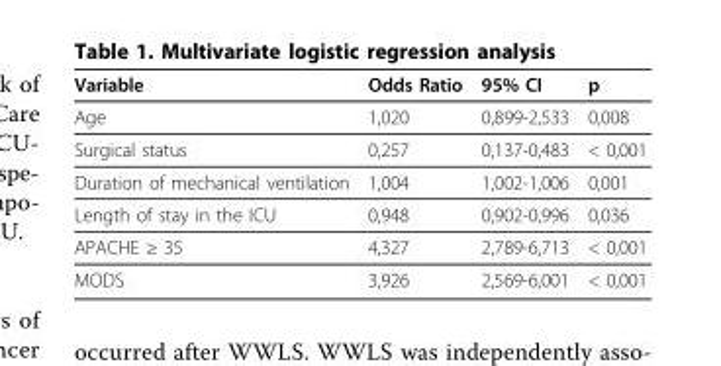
<table><thead><tr><td>Variable</td><td>Odds Ratio</td><td>95% CI</td><td>p</td></tr></thead><tbody><tr><td>Age</td><td>1,020</td><td>0,899-2,533</td><td>0,008</td></tr><tr><td>Surgical status</td><td>0,257</td><td>0,137-0,483</td><td>&lt; 0,001</td></tr><tr><td>Duration of mechanical ventilation</td><td>1,004</td><td>1,002-1,006</td><td>0,001</td></tr><tr><td>Length of stay in the ICU</td><td>0,948</td><td>0,902-0,996</td><td>0,036</td></tr><tr><td>APACHE ≥ 35</td><td>4,327</td><td>2,789-6,713</td><td>&lt; 0,001</td></tr><tr><td>MODS</td><td>3,926</td><td>2,569-6,001</td><td>&lt; 0,001</td></tr></tbody></table>